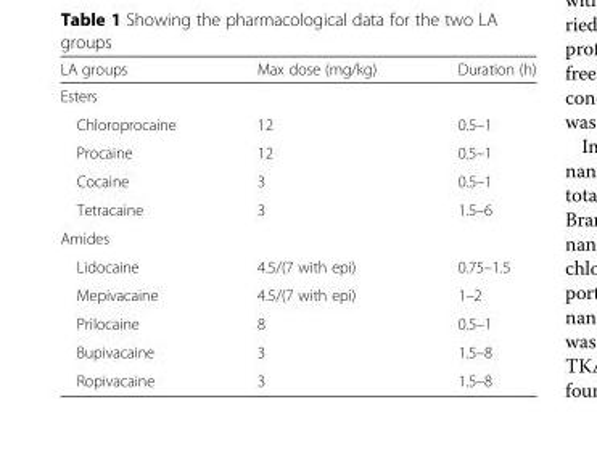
<table><thead><tr><td>LA groups</td><td>Max dose (mg/kg)</td><td>Duration (h)</td></tr></thead><tbody><tr><td colspan="3">Esters</td></tr><tr><td>Chloroprocaine</td><td>12</td><td>0.5–1</td></tr><tr><td>Procaine</td><td>12</td><td>0.5–1</td></tr><tr><td>Cocaine</td><td>3</td><td>0.5–1</td></tr><tr><td>Tetracaine</td><td>3</td><td>1.5–6</td></tr><tr><td colspan="3">Amides</td></tr><tr><td>Lidocaine</td><td>4.5/(7 with epi)</td><td>0.75–1.5</td></tr><tr><td>Mepivacaine</td><td>4.5/(7 with epi)</td><td>1–2</td></tr><tr><td>Prilocaine</td><td>8</td><td>0.5–1</td></tr><tr><td>Bupivacaine</td><td>3</td><td>1.5–8</td></tr><tr><td>Ropivacaine</td><td>3</td><td>1.5–8</td></tr></tbody></table>